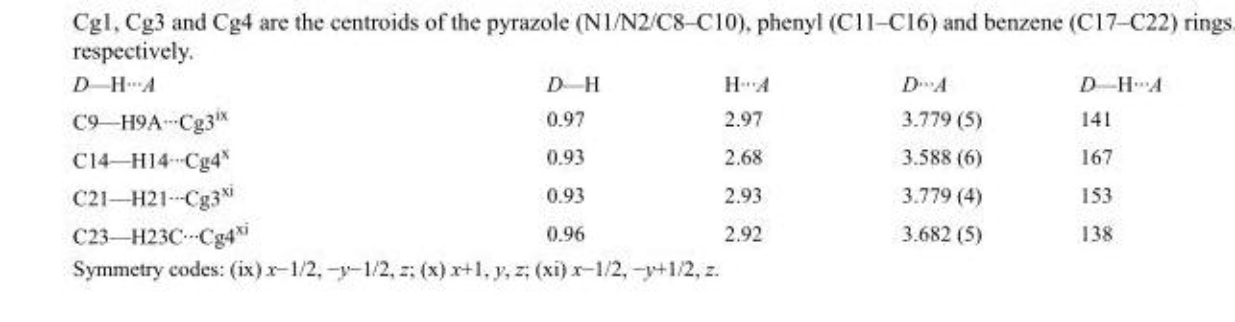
<table><tbody><tr><td>D—H···A</td><td>D—H</td><td>H···A</td><td>D···A</td><td>D—H···A</td></tr><tr><td>C9—H9A···Cg3<sup>ix</sup></td><td>0.97</td><td>2.97</td><td>3.779 (5)</td><td>141</td></tr><tr><td>C14—H14···Cg4<sup>x</sup></td><td>0.93</td><td>2.68</td><td>3.588 (6)</td><td>167</td></tr><tr><td>C21—H21···Cg3<sup>xi</sup></td><td>0.93</td><td>2.93</td><td>3.779 (4)</td><td>153</td></tr><tr><td>C23—H23C···Cg4<sup>xi</sup></td><td>0.96</td><td>2.92</td><td>3.682 (5)</td><td>138</td></tr></tbody></table>